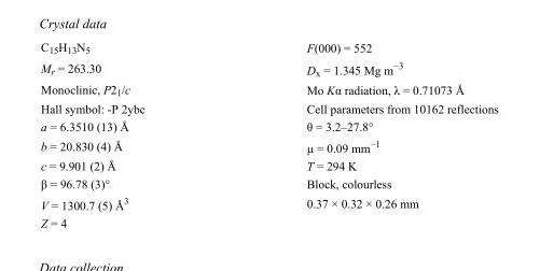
<table><tbody><tr><td>C<sub>15</sub>H<sub>13</sub>N<sub>5</sub></td><td>F(000) = 552</td></tr><tr><td>M<sub>r</sub> = 263.30</td><td>D<sub>x</sub> = 1.345 Mg m<sup>−3</sup></td></tr><tr><td>Monoclinic, P2<sub>1</sub>/c</td><td>Mo Kα radiation, λ = 0.71073 Å</td></tr><tr><td>Hall symbol: -P 2ybc</td><td>Cell parameters from 10162 reflections</td></tr><tr><td>a = 6.3510 (13) Å</td><td>θ = 3.2–27.8°</td></tr><tr><td>b = 20.830 (4) Å</td><td>µ = 0.09 mm<sup>−1</sup></td></tr><tr><td>c = 9.901 (2) Å</td><td>T = 294 K</td></tr><tr><td>β = 96.78 (3)°</td><td>Block, colourless</td></tr><tr><td>V = 1300.7 (5) Å<sup>3</sup></td><td>0.37 × 0.32 × 0.26 mm</td></tr><tr><td>Z = 4</td><td></td></tr></tbody></table>